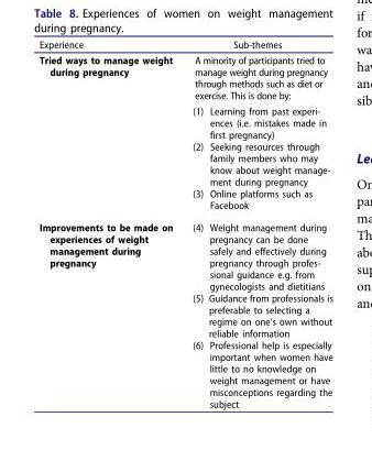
<table><thead><tr><td>Experience</td><td>Sub-themes</td></tr></thead><tbody><tr><td>Tried ways to manage weight during pregnancy</td><td>A minority of participants tried to manage weight during pregnancy through methods such as diet or exercise. This is done by: (1) Learning from past experi- ences (i.e. mistakes made in first pregnancy) (2) Seeking resources through family members who may know about weight manage- ment during pregnancy (3) Online platforms such as Facebook</td></tr><tr><td>Improvements to be made on experiences of weight management during pregnancy</td><td>(4) Weight management during pregnancy can be done safely and effectively during pregnancy through profes- sional guidance e.g. from gynecologists and dietitians (5) Guidance from professionals is preferable to selecting a regime on one’s own without reliable information (6) Professional help is especially important when women have little to no knowledge on weight management or have misconceptions regarding the subject</td></tr></tbody></table>